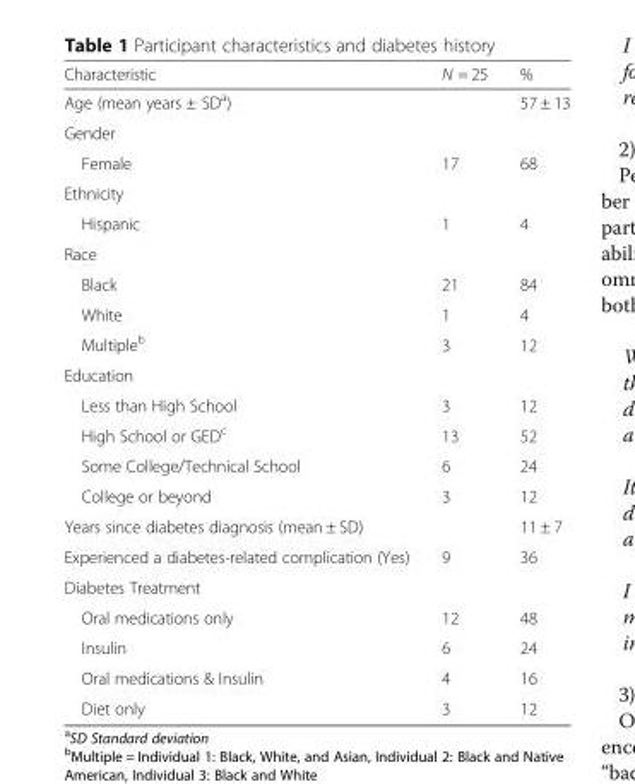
<table><thead><tr><td>Characteristic</td><td>N = 25</td><td>%</td></tr></thead><tbody><tr><td>Age (mean years ± SD<sup>a</sup>)</td><td></td><td>57 ± 13</td></tr><tr><td colspan="3">Gender</td></tr><tr><td>Female</td><td>17</td><td>68</td></tr><tr><td colspan="3">Ethnicity</td></tr><tr><td>Hispanic</td><td>1</td><td>4</td></tr><tr><td colspan="3">Race</td></tr><tr><td>Black</td><td>21</td><td>84</td></tr><tr><td>White</td><td>1</td><td>4</td></tr><tr><td>Multiple<sup>b</sup></td><td>3</td><td>12</td></tr><tr><td colspan="3">Education</td></tr><tr><td>Less than High School</td><td>3</td><td>12</td></tr><tr><td>High School or GED<sup>c</sup></td><td>13</td><td>52</td></tr><tr><td>Some College/Technical School</td><td>6</td><td>24</td></tr><tr><td>College or beyond</td><td>3</td><td>12</td></tr><tr><td>Years since diabetes diagnosis (mean ± SD)</td><td></td><td>11 ± 7</td></tr><tr><td>Experienced a diabetes-related complication (Yes)</td><td>9</td><td>36</td></tr><tr><td colspan="3">Diabetes Treatment</td></tr><tr><td>Oral medications only</td><td>12</td><td>48</td></tr><tr><td>Insulin</td><td>6</td><td>24</td></tr><tr><td>Oral medications &amp; Insulin</td><td>4</td><td>16</td></tr><tr><td>Diet only</td><td>3</td><td>12</td></tr></tbody></table>